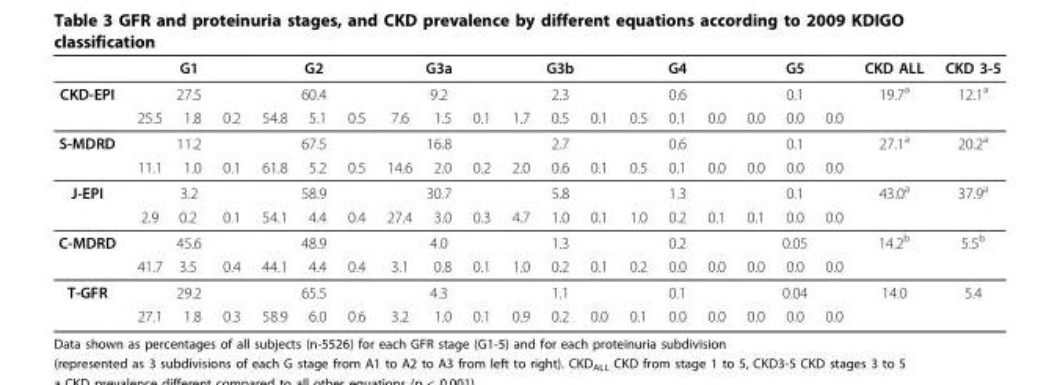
<table><thead><tr><td rowspan="3">CKD-EPI</td><td rowspan="2" colspan="3">G1 27.5</td><td rowspan="2" colspan="3">G2 60.4</td><td rowspan="2" colspan="3">G3a 9.2</td><td rowspan="2" colspan="3">G3b 2.3</td><td rowspan="2" colspan="3">G4 0.6</td><td rowspan="2" colspan="3">G5 0.1</td><td rowspan="3">CKD ALL 19.7a</td><td rowspan="3">CKD 3-5 12.1a</td></tr><tr></tr><tr><td>25.5</td><td>1.8</td><td>0.2</td><td>54.8</td><td>5.1</td><td>0.5</td><td>7.6</td><td>1.5</td><td>0.1</td><td>1.7</td><td>0.5</td><td>0.1</td><td>0.5</td><td>0.1</td><td>0.0</td><td>0.0</td><td>0.0</td><td>0.0</td></tr></thead><tbody><tr><td rowspan="2">S-MDRD</td><td colspan="3">11.2</td><td colspan="3">67.5</td><td colspan="3">16.8</td><td colspan="3">2.7</td><td colspan="3">0.6</td><td colspan="3">0.1</td><td>27.1<sup>a</sup></td><td>20.2<sup>a</sup></td></tr><tr><td>11.1</td><td>1.0</td><td>0.1</td><td>61.8</td><td>5.2</td><td>0.5</td><td>14.6</td><td>2.0</td><td>0.2</td><td>2.0</td><td>0.6</td><td>0.1</td><td>0.5</td><td>0.1</td><td>0.0</td><td>0.0</td><td>0.0</td><td>0.0</td><td></td><td></td></tr><tr><td rowspan="2">J-EPI</td><td colspan="3">3.2</td><td colspan="3">58.9</td><td colspan="3">30.7</td><td colspan="3">5.8</td><td colspan="3">1.3</td><td colspan="3">0.1</td><td>43.0<sup>a</sup></td><td>37.9<sup>a</sup></td></tr><tr><td>2.9</td><td>0.2</td><td>0.1</td><td>54.1</td><td>4.4</td><td>0.4</td><td>27.4</td><td>3.0</td><td>0.3</td><td>4.7</td><td>1.0</td><td>0.1</td><td>1.0</td><td>0.2</td><td>0.1</td><td>0.1</td><td>0.0</td><td>0.0</td><td></td><td></td></tr><tr><td rowspan="2">C-MDRD</td><td colspan="3">45.6</td><td colspan="3">48.9</td><td colspan="3">4.0</td><td colspan="3">1.3</td><td colspan="3">0.2</td><td colspan="3">0.05</td><td>14.2<sup>b</sup></td><td>5.5<sup>b</sup></td></tr><tr><td>41.7</td><td>3.5</td><td>0.4</td><td>44.1</td><td>4.4</td><td>0.4</td><td>3.1</td><td>0.8</td><td>0.1</td><td>1.0</td><td>0.2</td><td>0.1</td><td>0.2</td><td>0.0</td><td>0.0</td><td>0.0</td><td>0.0</td><td>0.0</td><td></td><td></td></tr><tr><td rowspan="2">T-GFR</td><td colspan="3">29.2</td><td colspan="3">65.5</td><td colspan="3">4.3</td><td colspan="3">1.1</td><td colspan="3">0.1</td><td colspan="3">0.04</td><td>14.0</td><td>5.4</td></tr><tr><td>27.1</td><td>1.8</td><td>0.3</td><td>58.9</td><td>6.0</td><td>0.6</td><td>3.2</td><td>1.0</td><td>0.1</td><td>0.9</td><td>0.2</td><td>0.0</td><td>0.1</td><td>0.0</td><td>0.0</td><td>0.0</td><td>0.0</td><td>0.0</td><td></td><td></td></tr></tbody></table>